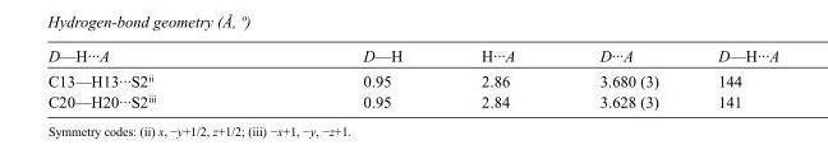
<table><tbody><tr><td>D—H···A</td><td>D—H</td><td>H···A</td><td>D···A</td><td>D—H···A</td></tr><tr><td>C13—H13···S2<sup>ii</sup></td><td>0.95</td><td>2.86</td><td>3.680 (3)</td><td>144</td></tr><tr><td>C20—H20···S2<sup>iii</sup></td><td>0.95</td><td>2.84</td><td>3.628 (3)</td><td>141</td></tr></tbody></table>